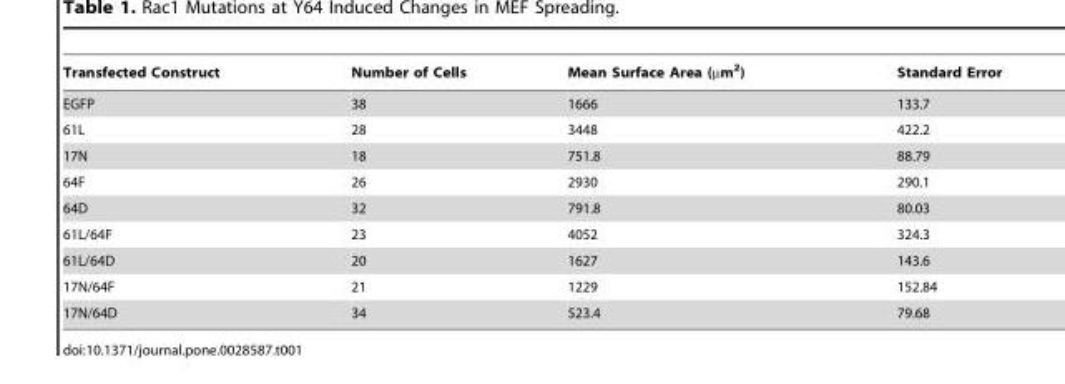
<table><thead><tr><td>Transfected Construct</td><td>Number of Cells</td><td>Mean Surface Area (µm<sup>2</sup>)</td><td>Standard Error</td></tr></thead><tbody><tr><td>EGFP</td><td>38</td><td>1666</td><td>133.7</td></tr><tr><td>61L</td><td>28</td><td>3448</td><td>422.2</td></tr><tr><td>17N</td><td>18</td><td>751.8</td><td>88.79</td></tr><tr><td>64F</td><td>26</td><td>2930</td><td>290.1</td></tr><tr><td>64D</td><td>32</td><td>791.8</td><td>80.03</td></tr><tr><td>61L/64F</td><td>23</td><td>4052</td><td>324.3</td></tr><tr><td>61L/64D</td><td>20</td><td>1627</td><td>143.6</td></tr><tr><td>17N/64F</td><td>21</td><td>1229</td><td>152.84</td></tr><tr><td>17N/64D</td><td>34</td><td>523.4</td><td>79.68</td></tr></tbody></table>